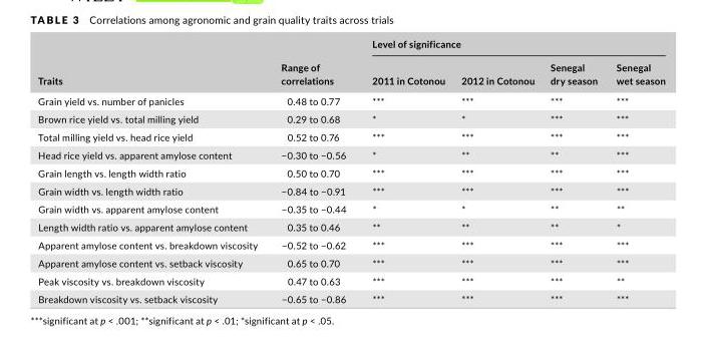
<table><thead><tr><td rowspan="2">Traits</td><td rowspan="2">Range of correlations</td><td colspan="4">Level of significance</td></tr><tr><td>2011 in Cotonou</td><td>2012 in Cotonou</td><td>Senegal dry season</td><td>Senegal wet season</td></tr></thead><tbody><tr><td>Grain yield vs. number of panicles</td><td>0.48 to 0.77</td><td>***</td><td>***</td><td>***</td><td>***</td></tr><tr><td>Brown rice yield vs. total milling yield</td><td>0.29 to 0.68</td><td>*</td><td>*</td><td>***</td><td>***</td></tr><tr><td>Total milling yield vs. head rice yield</td><td>0.52 to 0.76</td><td>***</td><td>***</td><td>***</td><td>***</td></tr><tr><td>Head rice yield vs. apparent amylose content</td><td>−0.30 to −0.56</td><td>*</td><td>**</td><td>**</td><td>***</td></tr><tr><td>Grain length vs. length width ratio</td><td>0.50 to 0.70</td><td>***</td><td>***</td><td>***</td><td>***</td></tr><tr><td>Grain width vs. length width ratio</td><td>−0.84 to −0.91</td><td>***</td><td>***</td><td>***</td><td>***</td></tr><tr><td>Grain width vs. apparent amylose content</td><td>−0.35 to −0.44</td><td>*</td><td>*</td><td>**</td><td>**</td></tr><tr><td>Length width ratio vs. apparent amylose content</td><td>0.35 to 0.46</td><td>**</td><td>**</td><td>**</td><td>*</td></tr><tr><td>Apparent amylose content vs. breakdown viscosity</td><td>−0.52 to −0.62</td><td>***</td><td>***</td><td>***</td><td>***</td></tr><tr><td>Apparent amylose content vs. setback viscosity</td><td>0.65 to 0.70</td><td>***</td><td>***</td><td>***</td><td>***</td></tr><tr><td>Peak viscosity vs. breakdown viscosity</td><td>0.47 to 0.63</td><td>***</td><td>***</td><td>***</td><td>**</td></tr><tr><td>Breakdown viscosity vs. setback viscosity</td><td>−0.65 to −0.86</td><td>***</td><td>***</td><td>***</td><td>***</td></tr></tbody></table>